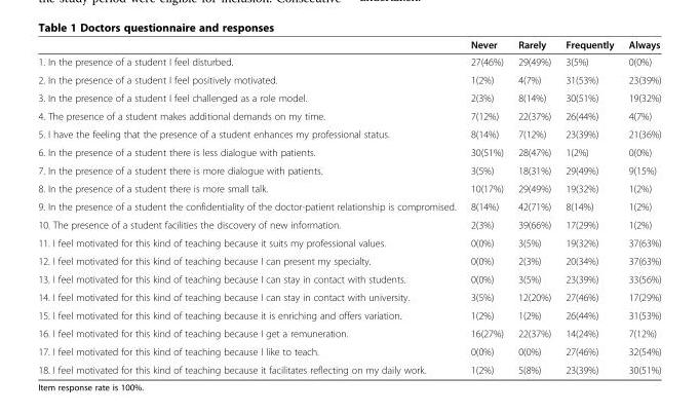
<table><thead><tr><td></td><td>Never</td><td>Rarely</td><td>Frequently</td><td>Always</td></tr></thead><tbody><tr><td>1. In the presence of a student I feel disturbed.</td><td>27(46%)</td><td>29(49%)</td><td>3(5%)</td><td>0(0%)</td></tr><tr><td>2. In the presence of a student I feel positively motivated.</td><td>1(2%)</td><td>4(7%)</td><td>31(53%)</td><td>23(39%)</td></tr><tr><td>3. In the presence of a student I feel challenged as a role model.</td><td>2(3%)</td><td>8(14%)</td><td>30(51%)</td><td>19(32%)</td></tr><tr><td>4. The presence of a student makes additional demands on my time.</td><td>7(12%)</td><td>22(37%)</td><td>26(44%)</td><td>4(7%)</td></tr><tr><td>5. I have the feeling that the presence of a student enhances my professional status.</td><td>8(14%)</td><td>7(12%)</td><td>23(39%)</td><td>21(36%)</td></tr><tr><td>6. In the presence of a student there is less dialogue with patients.</td><td>30(51%)</td><td>28(47%)</td><td>1(2%)</td><td>0(0%)</td></tr><tr><td>7. In the presence of a student there is more dialogue with patients.</td><td>3(5%)</td><td>18(31%)</td><td>29(49%)</td><td>9(15%)</td></tr><tr><td>8. In the presence of a student there is more small talk.</td><td>10(17%)</td><td>29(49%)</td><td>19(32%)</td><td>1(2%)</td></tr><tr><td>9. In the presence of a student the confidentiality of the doctor-patient relationship is compromised.</td><td>8(14%)</td><td>42(71%)</td><td>8(14%)</td><td>1(2%)</td></tr><tr><td>10. The presence of a student facilities the discovery of new information.</td><td>2(3%)</td><td>39(66%)</td><td>17(29%)</td><td>1(2%)</td></tr><tr><td>11. I feel motivated for this kind of teaching because it suits my professional values.</td><td>0(0%)</td><td>3(5%)</td><td>19(32%)</td><td>37(63%)</td></tr><tr><td>12. I feel motivated for this kind of teaching because I can present my specialty.</td><td>0(0%)</td><td>2(3%)</td><td>20(34%)</td><td>37(63%)</td></tr><tr><td>13. I feel motivated for this kind of teaching because I can stay in contact with students.</td><td>0(0%)</td><td>3(5%)</td><td>23(39%)</td><td>33(56%)</td></tr><tr><td>14. I feel motivated for this kind of teaching because I can stay in contact with university.</td><td>3(5%)</td><td>12(20%)</td><td>27(46%)</td><td>17(29%)</td></tr><tr><td>15. I feel motivated for this kind of teaching because it is enriching and offers variation.</td><td>1(2%)</td><td>1(2%)</td><td>26(44%)</td><td>31(53%)</td></tr><tr><td>16. I feel motivated for this kind of teaching because I get a remuneration.</td><td>16(27%)</td><td>22(37%)</td><td>14(24%)</td><td>7(12%)</td></tr><tr><td>17. I feel motivated for this kind of teaching because I like to teach.</td><td>0(0%)</td><td>0(0%)</td><td>27(46%)</td><td>32(54%)</td></tr><tr><td>18. I feel motivated for this kind of teaching because it facilitates reflecting on my daily work.</td><td>1(2%)</td><td>5(8%)</td><td>23(39%)</td><td>30(51%)</td></tr></tbody></table>